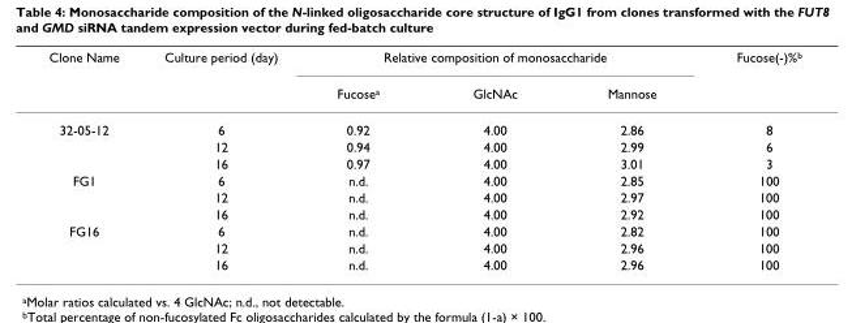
<table><thead><tr><td rowspan="2">Clone Name</td><td rowspan="2">Culture period (day)</td><td colspan="3">Relative composition of monosaccharide</td><td rowspan="2">Fucose(-)%<sup>b</sup></td></tr><tr><td>Fucose<sup>a</sup></td><td>GlcNAc</td><td>Mannose</td></tr></thead><tbody><tr><td rowspan="3">32-05-12</td><td>6</td><td>0.92</td><td>4.00</td><td>2.86</td><td>8</td></tr><tr><td>12</td><td>0.94</td><td>4.00</td><td>2.99</td><td>6</td></tr><tr><td>16</td><td>0.97</td><td>4.00</td><td>3.01</td><td>3</td></tr><tr><td rowspan="3">FG1</td><td>6</td><td>n.d.</td><td>4.00</td><td>2.85</td><td>100</td></tr><tr><td>12</td><td>n.d.</td><td>4.00</td><td>2.97</td><td>100</td></tr><tr><td>16</td><td>n.d.</td><td>4.00</td><td>2.92</td><td>100</td></tr><tr><td rowspan="3">FG16</td><td>6</td><td>n.d.</td><td>4.00</td><td>2.82</td><td>100</td></tr><tr><td>12</td><td>n.d.</td><td>4.00</td><td>2.96</td><td>100</td></tr><tr><td>16</td><td>n.d.</td><td>4.00</td><td>2.96</td><td>100</td></tr></tbody></table>